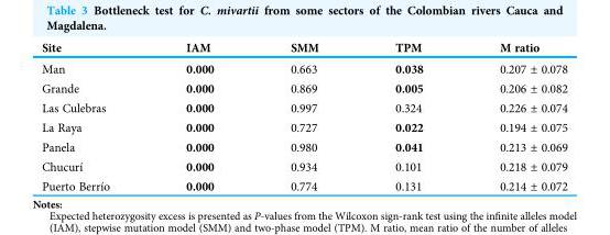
<table><thead><tr><td>Site</td><td>IAM</td><td>SMM</td><td>TPM</td><td>M ratio</td></tr></thead><tbody><tr><td>Man</td><td>0.000</td><td>0.663</td><td>0.038</td><td>0.207 ± 0.078</td></tr><tr><td>Grande</td><td>0.000</td><td>0.869</td><td>0.005</td><td>0.206 ± 0.082</td></tr><tr><td>Las Culebras</td><td>0.000</td><td>0.997</td><td>0.324</td><td>0.226 ± 0.074</td></tr><tr><td>La Raya</td><td>0.000</td><td>0.727</td><td>0.022</td><td>0.194 ± 0.075</td></tr><tr><td>Panela</td><td>0.000</td><td>0.980</td><td>0.041</td><td>0.213 ± 0.069</td></tr><tr><td>Chucurí</td><td>0.000</td><td>0.934</td><td>0.101</td><td>0.218 ± 0.079</td></tr><tr><td>Puerto Berrío</td><td>0.000</td><td>0.774</td><td>0.131</td><td>0.214 ± 0.072</td></tr></tbody></table>